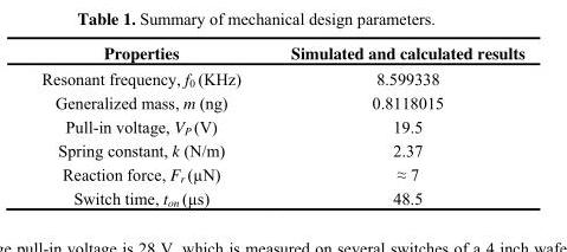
<table><thead><tr><td>Properties</td><td>Simulated and calculated results</td></tr></thead><tbody><tr><td>Resonant frequency, f<sub>0</sub> (KHz)</td><td>8.599338</td></tr><tr><td>Generalized mass, m (ng)</td><td>0.8118015</td></tr><tr><td>Pull-in voltage, V<sub>P</sub> (V)</td><td>19.5</td></tr><tr><td>Spring constant, k (N/m)</td><td>2.37</td></tr><tr><td>Reaction force, F<sub>r</sub> (µN)</td><td>≈ 7</td></tr><tr><td>Switch time, t<sub>on</sub> (µs)</td><td>48.5</td></tr></tbody></table>